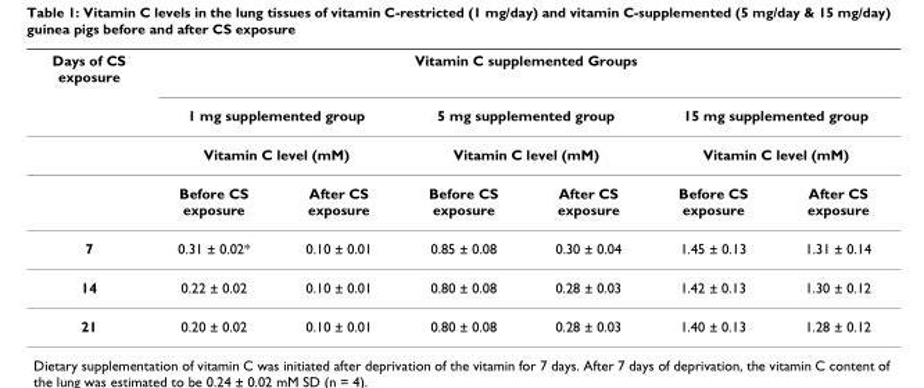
<table><thead><tr><td rowspan="4">Days of CS exposure</td><td colspan="6">Vitamin C supplemented Groups</td></tr><tr><td rowspan="2" colspan="2">1 mg supplemented group Vitamin C level (mM)</td><td rowspan="2" colspan="2">5 mg supplemented group Vitamin C level (mM)</td><td rowspan="2" colspan="2">15 mg supplemented group Vitamin C level (mM)</td></tr><tr></tr><tr><td>Before CS exposure</td><td>After CS exposure</td><td>Before CS exposure</td><td>After CS exposure</td><td>Before CS exposure</td><td>After CS exposure</td></tr></thead><tbody><tr><td>7</td><td>0.31 ± 0.02*</td><td>0.10 ± 0.01</td><td>0.85 ± 0.08</td><td>0.30 ± 0.04</td><td>1.45 ± 0.13</td><td>1.31 ± 0.14</td></tr><tr><td>14</td><td>0.22 ± 0.02</td><td>0.10 ± 0.01</td><td>0.80 ± 0.08</td><td>0.28 ± 0.03</td><td>1.42 ± 0.13</td><td>1.30 ± 0.12</td></tr><tr><td>21</td><td>0.20 ± 0.02</td><td>0.10 ± 0.01</td><td>0.80 ± 0.08</td><td>0.28 ± 0.03</td><td>1.40 ± 0.13</td><td>1.28 ± 0.12</td></tr></tbody></table>